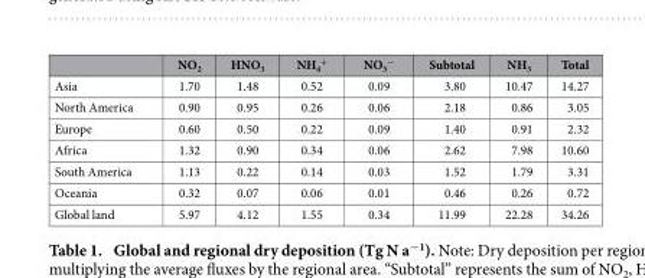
<table><thead><tr><td></td><td>NO<sub>2</sub></td><td>HNO<sub>3</sub></td><td>NH<sub>4</sub> <sup>+</sup></td><td>NO<sub>3</sub> <sup>−</sup></td><td>Subtotal</td><td>NH<sub>3</sub></td><td>Total</td></tr></thead><tbody><tr><td>Asia</td><td>1.70</td><td>1.48</td><td>0.52</td><td>0.09</td><td>3.80</td><td>10.47</td><td>14.27</td></tr><tr><td>North America</td><td>0.90</td><td>0.95</td><td>0.26</td><td>0.06</td><td>2.18</td><td>0.86</td><td>3.05</td></tr><tr><td>Europe</td><td>0.60</td><td>0.50</td><td>0.22</td><td>0.09</td><td>1.40</td><td>0.91</td><td>2.32</td></tr><tr><td>Africa</td><td>1.32</td><td>0.90</td><td>0.34</td><td>0.06</td><td>2.62</td><td>7.98</td><td>10.60</td></tr><tr><td>South America</td><td>1.13</td><td>0.22</td><td>0.14</td><td>0.03</td><td>1.52</td><td>1.79</td><td>3.31</td></tr><tr><td>Oceania</td><td>0.32</td><td>0.07</td><td>0.06</td><td>0.01</td><td>0.46</td><td>0.26</td><td>0.72</td></tr><tr><td>Global land</td><td>5.97</td><td>4.12</td><td>1.55</td><td>0.34</td><td>11.99</td><td>22.28</td><td>34.26</td></tr></tbody></table>